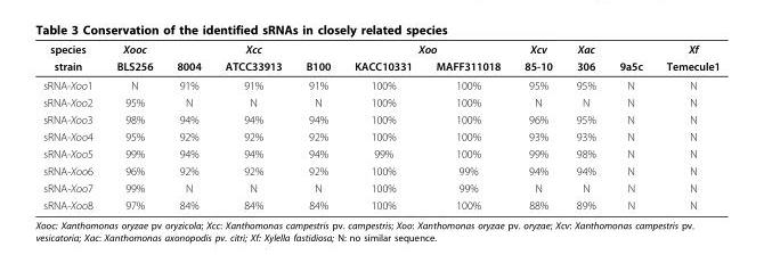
<table><thead><tr><td rowspan="2">species strain</td><td rowspan="2">Xooc BLS256</td><td rowspan="2">8004</td><td rowspan="2">Xcc ATCC33913</td><td rowspan="2">B100</td><td colspan="2">Xoo</td><td rowspan="2">Xcv 85-10</td><td rowspan="2">Xac 306</td><td rowspan="2">9a5c</td><td rowspan="2">Xf Temecule1</td></tr><tr><td>KACC10331</td><td>MAFF311018</td></tr></thead><tbody><tr><td>sRNA-Xoo1</td><td>N</td><td>91%</td><td>91%</td><td>91%</td><td>100%</td><td>100%</td><td>95%</td><td>95%</td><td>N</td><td>N</td></tr><tr><td>sRNA-Xoo2</td><td>95%</td><td>N</td><td>N</td><td>N</td><td>100%</td><td>100%</td><td>N</td><td>N</td><td>N</td><td>N</td></tr><tr><td>sRNA-Xoo3</td><td>98%</td><td>94%</td><td>94%</td><td>94%</td><td>100%</td><td>100%</td><td>96%</td><td>95%</td><td>N</td><td>N</td></tr><tr><td>sRNA-Xoo4</td><td>95%</td><td>92%</td><td>92%</td><td>92%</td><td>100%</td><td>100%</td><td>93%</td><td>93%</td><td>N</td><td>N</td></tr><tr><td>sRNA-Xoo5</td><td>99%</td><td>94%</td><td>94%</td><td>94%</td><td>99%</td><td>100%</td><td>99%</td><td>98%</td><td>N</td><td>N</td></tr><tr><td>sRNA-Xoo6</td><td>96%</td><td>92%</td><td>92%</td><td>92%</td><td>100%</td><td>99%</td><td>94%</td><td>94%</td><td>N</td><td>N</td></tr><tr><td>sRNA-Xoo7</td><td>99%</td><td>N</td><td>N</td><td>N</td><td>100%</td><td>99%</td><td>N</td><td>N</td><td>N</td><td>N</td></tr><tr><td>sRNA-Xoo8</td><td>97%</td><td>84%</td><td>84%</td><td>84%</td><td>100%</td><td>100%</td><td>88%</td><td>89%</td><td>N</td><td>N</td></tr></tbody></table>